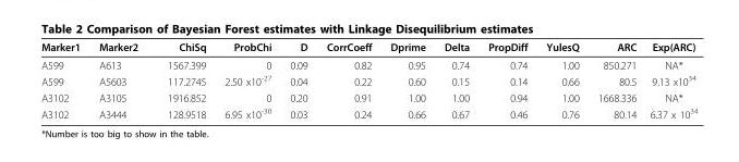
<table><thead><tr><td>Marker1</td><td>Marker2</td><td>ChiSq</td><td>ProbChi</td><td>D</td><td>CorrCoeff</td><td>Dprime</td><td>Delta</td><td>PropDiff</td><td>YulesQ</td><td>ARC</td><td>Exp(ARC)</td></tr></thead><tbody><tr><td>A599</td><td>A613</td><td>1567.399</td><td>0</td><td>0.09</td><td>0.82</td><td>0.95</td><td>0.74</td><td>0.74</td><td>1.00</td><td>850.271</td><td>NA*</td></tr><tr><td>A599</td><td>A5603</td><td>117.2745</td><td>2.50 x10<sup>-27</sup></td><td>0.04</td><td>0.22</td><td>0.60</td><td>0.15</td><td>0.14</td><td>0.66</td><td>80.5</td><td>9.13 x10<sup>34</sup></td></tr><tr><td>A3102</td><td>A3105</td><td>1916.852</td><td>0</td><td>0.20</td><td>0.91</td><td>1.00</td><td>1.00</td><td>0.94</td><td>1.00</td><td>1668.336</td><td>NA*</td></tr><tr><td>A3102</td><td>A3444</td><td>128.9518</td><td>6.95 x10<sup>-30</sup></td><td>0.03</td><td>0.24</td><td>0.66</td><td>0.67</td><td>0.46</td><td>0.76</td><td>80.14</td><td>6.37 x 10<sup>34</sup></td></tr></tbody></table>